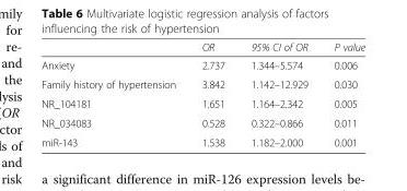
<table><thead><tr><td></td><td>OR</td><td>95% CI of OR</td><td>P value</td></tr></thead><tbody><tr><td>Anxiety</td><td>2.737</td><td>1.344–5.574</td><td>0.006</td></tr><tr><td>Family history of hypertension</td><td>3.842</td><td>1.142–12.929</td><td>0.030</td></tr><tr><td>NR_104181</td><td>1.651</td><td>1.164–2.342</td><td>0.005</td></tr><tr><td>NR_034083</td><td>0.528</td><td>0.322–0.866</td><td>0.011</td></tr><tr><td>miR-143</td><td>1.538</td><td>1.182–2.000</td><td>0.001</td></tr></tbody></table>